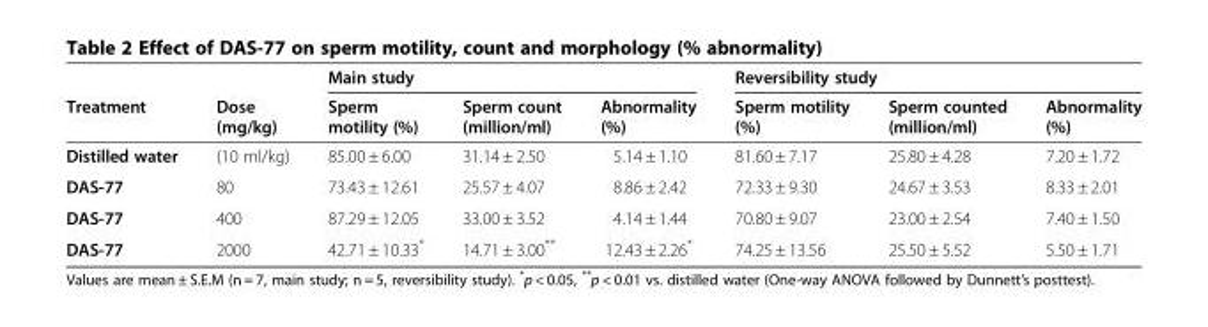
<table><thead><tr><td rowspan="2">Treatment</td><td rowspan="2">Dose (mg/kg)</td><td colspan="3">Main study</td><td colspan="3">Reversibility study</td></tr><tr><td>Sperm motility (%)</td><td>Sperm count (million/ml)</td><td>Abnormality (%)</td><td>Sperm motility (%)</td><td>Sperm counted (million/ml)</td><td>Abnormality (%)</td></tr></thead><tbody><tr><td>Distilled water</td><td>(10 ml/kg)</td><td>85.00 ± 6.00</td><td>31.14 ± 2.50</td><td>5.14 ± 1.10</td><td>81.60 ± 7.17</td><td>25.80 ± 4.28</td><td>7.20 ± 1.72</td></tr><tr><td>DAS-77</td><td>80</td><td>73.43 ± 12.61</td><td>25.57 ± 4.07</td><td>8.86 ± 2.42</td><td>72.33 ± 9.30</td><td>24.67 ± 3.53</td><td>8.33 ± 2.01</td></tr><tr><td>DAS-77</td><td>400</td><td>87.29 ± 12.05</td><td>33.00 ± 3.52</td><td>4.14 ± 1.44</td><td>70.80 ± 9.07</td><td>23.00 ± 2.54</td><td>7.40 ± 1.50</td></tr><tr><td>DAS-77</td><td>2000</td><td>42.71 ± 10.33*</td><td>14.71 ± 3.00**</td><td>12.43 ± 2.26*</td><td>74.25 ± 13.56</td><td>25.50 ± 5.52</td><td>5.50 ± 1.71</td></tr></tbody></table>